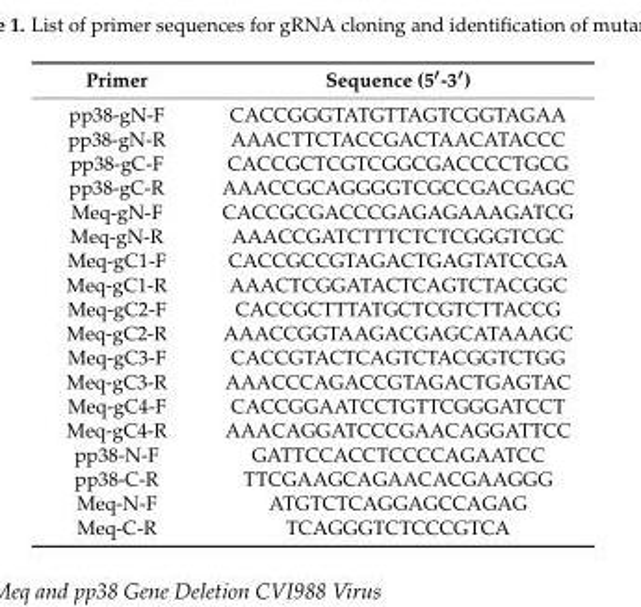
<table><thead><tr><td>Primer</td><td>Sequence (5′-3′)</td></tr></thead><tbody><tr><td>pp38-gN-F</td><td>CACCGGGTATGTTAGTCGGTAGAA</td></tr><tr><td>pp38-gN-R</td><td>AAACTTCTACCGACTAACATACCC</td></tr><tr><td>pp38-gC-F</td><td>CACCGCTCGTCGGCGACCCCTGCG</td></tr><tr><td>pp38-gC-R</td><td>AAACCGCAGGGGTCGCCGACGAGC</td></tr><tr><td>Meq-gN-F</td><td>CACCGCGACCCGAGAGAAAGATCG</td></tr><tr><td>Meq-gN-R</td><td>AAACCGATCTTTCTCTCGGGTCGC</td></tr><tr><td>Meq-gC1-F</td><td>CACCGCCGTAGACTGAGTATCCGA</td></tr><tr><td>Meq-gC1-R</td><td>AAACTCGGATACTCAGTCTACGGC</td></tr><tr><td>Meq-gC2-F</td><td>CACCGCTTTATGCTCGTCTTACCG</td></tr><tr><td>Meq-gC2-R</td><td>AAACCGGTAAGACGAGCATAAAGC</td></tr><tr><td>Meq-gC3-F</td><td>CACCGTACTCAGTCTACGGTCTGG</td></tr><tr><td>Meq-gC3-R</td><td>AAACCCAGACCGTAGACTGAGTAC</td></tr><tr><td>Meq-gC4-F</td><td>CACCGGAATCCTGTTCGGGATCCT</td></tr><tr><td>Meq-gC4-R</td><td>AAACAGGATCCCGAACAGGATTCC</td></tr><tr><td>pp38-N-F</td><td>GATTCCACCTCCCCAGAATCC</td></tr><tr><td>pp38-C-R</td><td>TTCGAAGCAGAACACGAAGGG</td></tr><tr><td>Meq-N-F</td><td>ATGTCTCAGGAGCCAGAG</td></tr><tr><td>Meq-C-R</td><td>TCAGGGTCTCCCGTCA</td></tr></tbody></table>